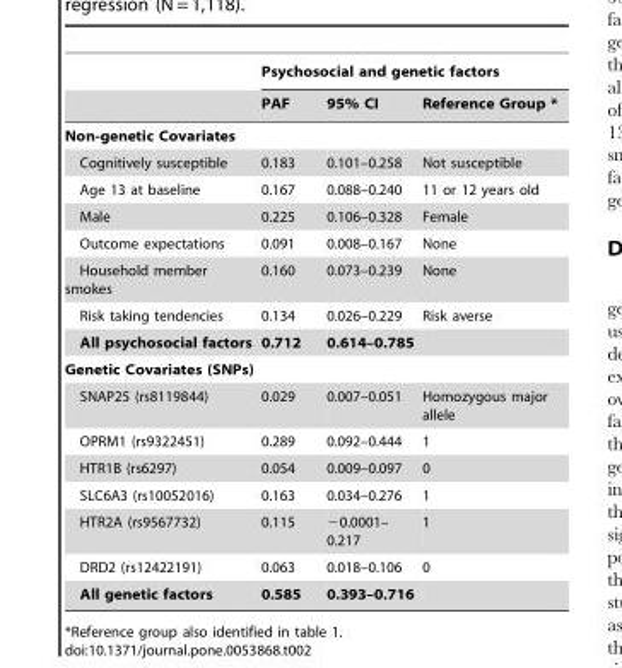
<table><thead><tr><td rowspan="2"></td><td colspan="3">Psychosocial and genetic factors</td></tr><tr><td>PAF</td><td>95% CI</td><td>Reference Group *</td></tr></thead><tbody><tr><td colspan="4">Non-genetic Covariates</td></tr><tr><td>Cognitively susceptible</td><td>0.183</td><td>0.101–0.258</td><td>Not susceptible</td></tr><tr><td>Age 13 at baseline</td><td>0.167</td><td>0.088–0.240</td><td>11 or 12 years old</td></tr><tr><td>Male</td><td>0.225</td><td>0.106–0.328</td><td>Female</td></tr><tr><td>Outcome expectations</td><td>0.091</td><td>0.008–0.167</td><td>None</td></tr><tr><td>Household member smokes</td><td>0.160</td><td>0.073–0.239</td><td>None</td></tr><tr><td>Risk taking tendencies</td><td>0.134</td><td>0.026–0.229</td><td>Risk averse</td></tr><tr><td>All psychosocial factors</td><td>0.712</td><td>0.614–0.785</td><td></td></tr><tr><td colspan="4">Genetic Covariates (SNPs)</td></tr><tr><td>SNAP25 (rs8119844)</td><td>0.029</td><td>0.007–0.051</td><td>Homozygous major allele</td></tr><tr><td>OPRM1 (rs9322451)</td><td>0.289</td><td>0.092–0.444</td><td>1</td></tr><tr><td>HTR1B (rs6297)</td><td>0.054</td><td>0.009–0.097</td><td>0</td></tr><tr><td>SLC6A3 (rs10052016)</td><td>0.163</td><td>0.034–0.276</td><td>1</td></tr><tr><td>HTR2A (rs9567732)</td><td>0.115</td><td>−0.0001– 0.217</td><td>1</td></tr><tr><td>DRD2 (rs12422191)</td><td>0.063</td><td>0.018–0.106</td><td>0</td></tr><tr><td>All genetic factors</td><td>0.585</td><td>0.393–0.716</td><td></td></tr></tbody></table>